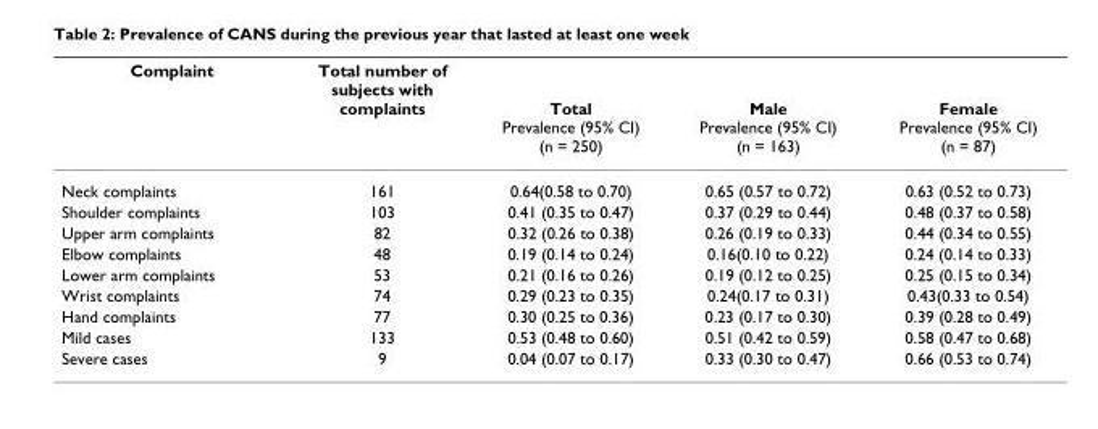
<table><thead><tr><td>Complaint</td><td>Total number of subjects with complaints</td><td>Total Prevalence (95% CI) (n = 250)</td><td>Male Prevalence (95% CI) (n = 163)</td><td>Female Prevalence (95% CI) (n = 87)</td></tr></thead><tbody><tr><td>Neck complaints</td><td>161</td><td>0.64(0.58 to 0.70)</td><td>0.65 (0.57 to 0.72)</td><td>0.63 (0.52 to 0.73)</td></tr><tr><td>Shoulder complaints</td><td>103</td><td>0.41 (0.35 to 0.47)</td><td>0.37 (0.29 to 0.44)</td><td>0.48 (0.37 to 0.58)</td></tr><tr><td>Upper arm complaints</td><td>82</td><td>0.32 (0.26 to 0.38)</td><td>0.26 (0.19 to 0.33)</td><td>0.44 (0.34 to 0.55)</td></tr><tr><td>Elbow complaints</td><td>48</td><td>0.19 (0.14 to 0.24)</td><td>0.16(0.10 to 0.22)</td><td>0.24 (0.14 to 0.33)</td></tr><tr><td>Lower arm complaints</td><td>53</td><td>0.21 (0.16 to 0.26)</td><td>0.19 (0.12 to 0.25)</td><td>0.25 (0.15 to 0.34)</td></tr><tr><td>Wrist complaints</td><td>74</td><td>0.29 (0.23 to 0.35)</td><td>0.24(0.17 to 0.31)</td><td>0.43(0.33 to 0.54)</td></tr><tr><td>Hand complaints</td><td>77</td><td>0.30 (0.25 to 0.36)</td><td>0.23 (0.17 to 0.30)</td><td>0.39 (0.28 to 0.49)</td></tr><tr><td>Mild cases</td><td>133</td><td>0.53 (0.48 to 0.60)</td><td>0.51 (0.42 to 0.59)</td><td>0.58 (0.47 to 0.68)</td></tr><tr><td>Severe cases</td><td>9</td><td>0.04 (0.07 to 0.17)</td><td>0.33 (0.30 to 0.47)</td><td>0.66 (0.53 to 0.74)</td></tr></tbody></table>